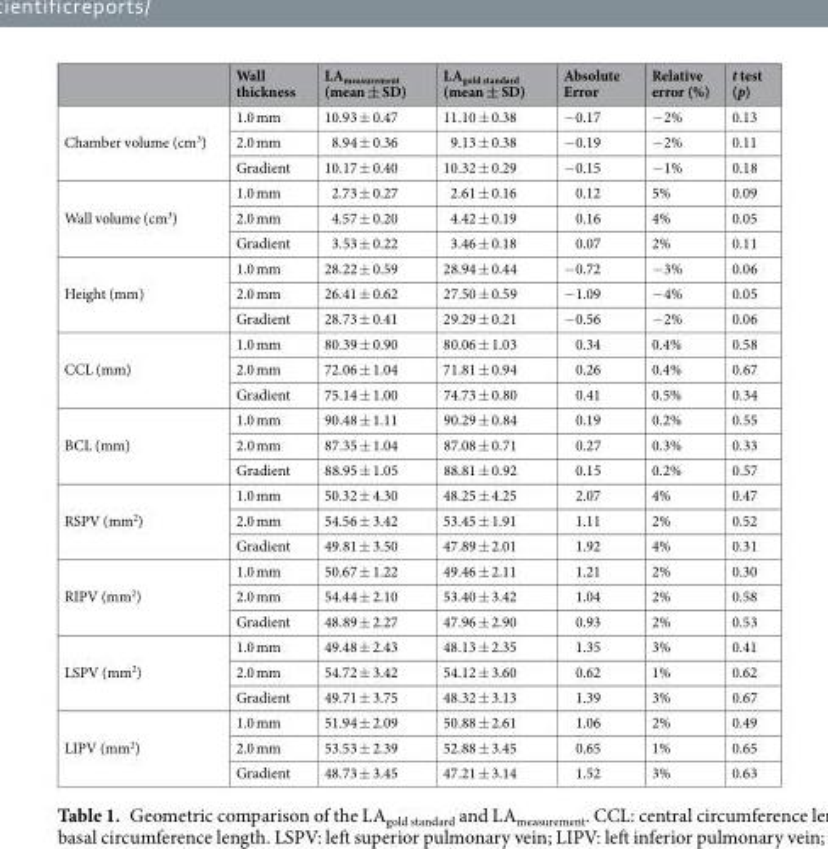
<table><thead><tr><td></td><td>Wall thickness</td><td>LA<sub>measurement</sub> (mean ± SD)</td><td>LA<sub>gold standard</sub> (mean ± SD)</td><td>Absolute Error</td><td>Relative error (%)</td><td>t test (p)</td></tr></thead><tbody><tr><td rowspan="3">Chamber volume (cm<sup>3</sup>)</td><td>1.0 mm</td><td>10.93 ± 0.47</td><td>11.10 ± 0.38</td><td>−0.17</td><td>−2%</td><td>0.13</td></tr><tr><td>2.0 mm</td><td>8.94 ± 0.36</td><td>9.13 ± 0.38</td><td>−0.19</td><td>−2%</td><td>0.11</td></tr><tr><td>Gradient</td><td>10.17 ± 0.40</td><td>10.32 ± 0.29</td><td>−0.15</td><td>−1%</td><td>0.18</td></tr><tr><td rowspan="3">Wall volume (cm<sup>3</sup>)</td><td>1.0 mm</td><td>2.73 ± 0.27</td><td>2.61 ± 0.16</td><td>0.12</td><td>5%</td><td>0.09</td></tr><tr><td>2.0 mm</td><td>4.57 ± 0.20</td><td>4.42 ± 0.19</td><td>0.16</td><td>4%</td><td>0.05</td></tr><tr><td>Gradient</td><td>3.53 ± 0.22</td><td>3.46 ± 0.18</td><td>0.07</td><td>2%</td><td>0.11</td></tr><tr><td rowspan="3">Height (mm)</td><td>1.0 mm</td><td>28.22 ± 0.59</td><td>28.94 ± 0.44</td><td>−0.72</td><td>−3%</td><td>0.06</td></tr><tr><td>2.0 mm</td><td>26.41 ± 0.62</td><td>27.50 ± 0.59</td><td>−1.09</td><td>−4%</td><td>0.05</td></tr><tr><td>Gradient</td><td>28.73 ± 0.41</td><td>29.29 ± 0.21</td><td>−0.56</td><td>−2%</td><td>0.06</td></tr><tr><td rowspan="3">CCL (mm)</td><td>1.0 mm</td><td>80.39 ± 0.90</td><td>80.06 ± 1.03</td><td>0.34</td><td>0.4%</td><td>0.58</td></tr><tr><td>2.0 mm</td><td>72.06 ± 1.04</td><td>71.81 ± 0.94</td><td>0.26</td><td>0.4%</td><td>0.67</td></tr><tr><td>Gradient</td><td>75.14 ± 1.00</td><td>74.73 ± 0.80</td><td>0.41</td><td>0.5%</td><td>0.34</td></tr><tr><td rowspan="3">BCL (mm)</td><td>1.0 mm</td><td>90.48 ± 1.11</td><td>90.29 ± 0.84</td><td>0.19</td><td>0.2%</td><td>0.55</td></tr><tr><td>2.0 mm</td><td>87.35 ± 1.04</td><td>87.08 ± 0.71</td><td>0.27</td><td>0.3%</td><td>0.33</td></tr><tr><td>Gradient</td><td>88.95 ± 1.05</td><td>88.81 ± 0.92</td><td>0.15</td><td>0.2%</td><td>0.57</td></tr><tr><td rowspan="3">RSPV (mm<sup>2</sup>)</td><td>1.0 mm</td><td>50.32 ± 4.30</td><td>48.25 ± 4.25</td><td>2.07</td><td>4%</td><td>0.47</td></tr><tr><td>2.0 mm</td><td>54.56 ± 3.42</td><td>53.45 ± 1.91</td><td>1.11</td><td>2%</td><td>0.52</td></tr><tr><td>Gradient</td><td>49.81 ± 3.50</td><td>47.89 ± 2.01</td><td>1.92</td><td>4%</td><td>0.31</td></tr><tr><td rowspan="3">RIPV (mm<sup>2</sup>)</td><td>1.0 mm</td><td>50.67 ± 1.22</td><td>49.46 ± 2.11</td><td>1.21</td><td>2%</td><td>0.30</td></tr><tr><td>2.0 mm</td><td>54.44 ± 2.10</td><td>53.40 ± 3.42</td><td>1.04</td><td>2%</td><td>0.58</td></tr><tr><td>Gradient</td><td>48.89 ± 2.27</td><td>47.96 ± 2.90</td><td>0.93</td><td>2%</td><td>0.53</td></tr><tr><td rowspan="3">LSPV (mm<sup>2</sup>)</td><td>1.0 mm</td><td>49.48 ± 2.43</td><td>48.13 ± 2.35</td><td>1.35</td><td>3%</td><td>0.41</td></tr><tr><td>2.0 mm</td><td>54.72 ± 3.42</td><td>54.12 ± 3.60</td><td>0.62</td><td>1%</td><td>0.62</td></tr><tr><td>Gradient</td><td>49.71 ± 3.75</td><td>48.32 ± 3.13</td><td>1.39</td><td>3%</td><td>0.67</td></tr><tr><td rowspan="3">LIPV (mm<sup>2</sup>)</td><td>1.0 mm</td><td>51.94 ± 2.09</td><td>50.88 ± 2.61</td><td>1.06</td><td>2%</td><td>0.49</td></tr><tr><td>2.0 mm</td><td>53.53 ± 2.39</td><td>52.88 ± 3.45</td><td>0.65</td><td>1%</td><td>0.65</td></tr><tr><td>Gradient</td><td>48.73 ± 3.45</td><td>47.21 ± 3.14</td><td>1.52</td><td>3%</td><td>0.63</td></tr></tbody></table>